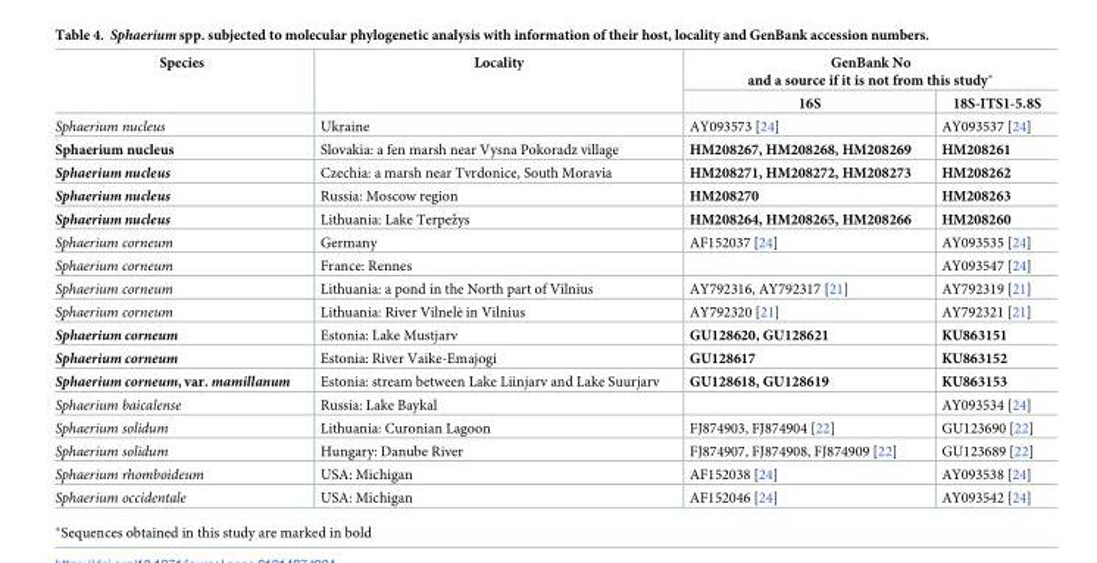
<table><thead><tr><td rowspan="2">Species</td><td rowspan="2">Locality</td><td colspan="2">GenBank No and a source if it is not from this study*</td></tr><tr><td>16S</td><td>18S-ITS1-5.8S</td></tr></thead><tbody><tr><td>Sphaerium nucleus</td><td>Ukraine</td><td>AY093573 [24]</td><td>AY093537 [24]</td></tr><tr><td>Sphaerium nucleus</td><td>Slovakia: a fen marsh near Vysna Pokoradz village</td><td>HM208267, HM208268, HM208269</td><td>HM208261</td></tr><tr><td>Sphaerium nucleus</td><td>Czechia: a marsh near Tvrdonice, South Moravia</td><td>HM208271, HM208272, HM208273</td><td>HM208262</td></tr><tr><td>Sphaerium nucleus</td><td>Russia: Moscow region</td><td>HM208270</td><td>HM208263</td></tr><tr><td>Sphaerium nucleus</td><td>Lithuania: Lake Terpezˇys</td><td>HM208264, HM208265, HM208266</td><td>HM208260</td></tr><tr><td>Sphaerium corneum</td><td>Germany</td><td>AF152037 [24]</td><td>AY093535 [24]</td></tr><tr><td>Sphaerium corneum</td><td>France: Rennes</td><td></td><td>AY093547 [24]</td></tr><tr><td>Sphaerium corneum</td><td>Lithuania: a pond in the North part of Vilnius</td><td>AY792316, AY792317 [21]</td><td>AY792319 [21]</td></tr><tr><td>Sphaerium corneum</td><td>Lithuania: River Vilnelė in Vilnius</td><td>AY792320 [21]</td><td>AY792321 [21]</td></tr><tr><td>Sphaerium corneum</td><td>Estonia: Lake Mustjarv</td><td>GU128620, GU128621</td><td>KU863151</td></tr><tr><td>Sphaerium corneum</td><td>Estonia: River Vaike-Emajogi</td><td>GU128617</td><td>KU863152</td></tr><tr><td>Sphaerium corneum, var. mamillanum</td><td>Estonia: stream between Lake Liinjarv and Lake Suurjarv</td><td>GU128618, GU128619</td><td>KU863153</td></tr><tr><td>Sphaerium baicalense</td><td>Russia: Lake Baykal</td><td></td><td>AY093534 [24]</td></tr><tr><td>Sphaerium solidum</td><td>Lithuania: Curonian Lagoon</td><td>FJ874903, FJ874904 [22]</td><td>GU123690 [22]</td></tr><tr><td>Sphaerium solidum</td><td>Hungary: Danube River</td><td>FJ874907, FJ874908, FJ874909 [22]</td><td>GU123689 [22]</td></tr><tr><td>Sphaerium rhomboideum</td><td>USA: Michigan</td><td>AF152038 [24]</td><td>AY093538 [24]</td></tr><tr><td>Sphaerium occidentale</td><td>USA: Michigan</td><td>AF152046 [24]</td><td>AY093542 [24]</td></tr></tbody></table>